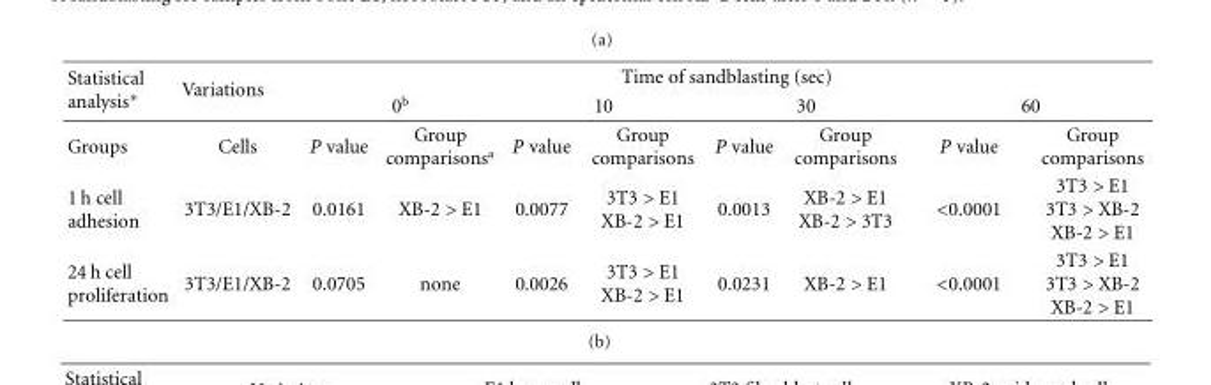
<table><thead><tr><td rowspan="3">Statistical analysis∗ Groups</td><td rowspan="3">Variations Cells</td><td colspan="8">Time of sandblasting (sec)</td></tr><tr><td colspan="2">0<sup>b</sup></td><td colspan="2">10</td><td colspan="2">30</td><td colspan="2">60</td></tr><tr><td>P value</td><td>Group comparisons<sup>a</sup></td><td>P value</td><td>Group comparisons</td><td>P value</td><td>Group comparisons</td><td>P value</td><td>Group comparisons</td></tr></thead><tbody><tr><td>1 h cell adhesion</td><td>3T3/E1/XB-2</td><td>0.0161</td><td>XB-2 &gt; E1</td><td>0.0077</td><td>3T3 &gt; E1 XB-2 &gt; E1</td><td>0.0013</td><td>XB-2 &gt; E1 XB-2 &gt; 3T3</td><td>&lt;0.0001</td><td>3T3 &gt; E1 3T3 &gt; XB-2 XB-2 &gt; E1</td></tr><tr><td>24 h cell proliferation</td><td>3T3/E1/XB-2</td><td>0.0705</td><td>none</td><td>0.0026</td><td>3T3 &gt; E1 XB-2 &gt; E1</td><td>0.0231</td><td>XB-2 &gt; E1</td><td>&lt;0.0001</td><td>3T3 &gt; E1 3T3 &gt; XB-2 XB-2 &gt; E1</td></tr></tbody></table>